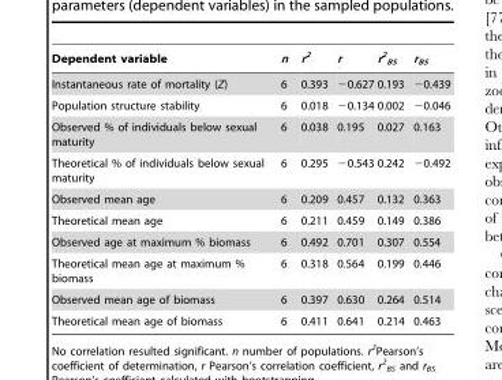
<table><thead><tr><td>Dependent variable</td><td>n</td><td>r<sup>2</sup></td><td>r</td><td>r<sup>2</sup> <sub>BS</sub></td><td>r<sub>BS</sub></td></tr></thead><tbody><tr><td>Instantaneous rate of mortality (Z)</td><td>6</td><td>0.393</td><td>−0.627</td><td>0.193</td><td>−0.439</td></tr><tr><td>Population structure stability</td><td>6</td><td>0.018</td><td>−0.134</td><td>0.002</td><td>−0.046</td></tr><tr><td>Observed % of individuals below sexual maturity</td><td>6</td><td>0.038</td><td>0.195</td><td>0.027</td><td>0.163</td></tr><tr><td>Theoretical % of individuals below sexual maturity</td><td>6</td><td>0.295</td><td>−0.543</td><td>0.242</td><td>−0.492</td></tr><tr><td>Observed mean age</td><td>6</td><td>0.209</td><td>0.457</td><td>0.132</td><td>0.363</td></tr><tr><td>Theoretical mean age</td><td>6</td><td>0.211</td><td>0.459</td><td>0.149</td><td>0.386</td></tr><tr><td>Observed age at maximum % biomass</td><td>6</td><td>0.492</td><td>0.701</td><td>0.307</td><td>0.554</td></tr><tr><td>Theoretical mean age at maximum % biomass</td><td>6</td><td>0.318</td><td>0.564</td><td>0.199</td><td>0.446</td></tr><tr><td>Observed mean age of biomass</td><td>6</td><td>0.397</td><td>0.630</td><td>0.264</td><td>0.514</td></tr><tr><td>Theoretical mean age of biomass</td><td>6</td><td>0.411</td><td>0.641</td><td>0.214</td><td>0.463</td></tr></tbody></table>